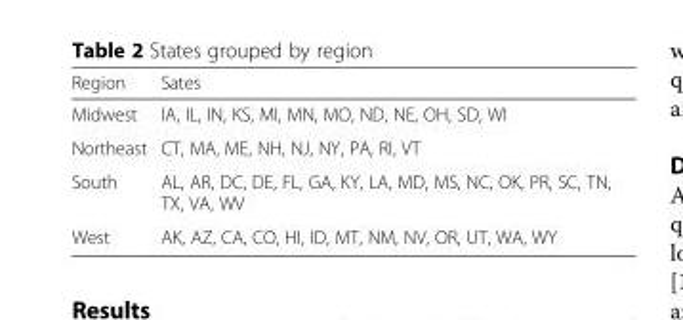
<table><thead><tr><td>Region</td><td>Sates</td></tr></thead><tbody><tr><td>Midwest</td><td>IA, IL, IN, KS, MI, MN, MO, ND, NE, OH, SD, WI</td></tr><tr><td>Northeast</td><td>CT, MA, ME, NH, NJ, NY, PA, RI, VT</td></tr><tr><td>South</td><td>AL, AR, DC, DE, FL, GA, KY, LA, MD, MS, NC, OK, PR, SC, TN, TX, VA, WV</td></tr><tr><td>West</td><td>AK, AZ, CA, CO, HI, ID, MT, NM, NV, OR, UT, WA, WY</td></tr></tbody></table>